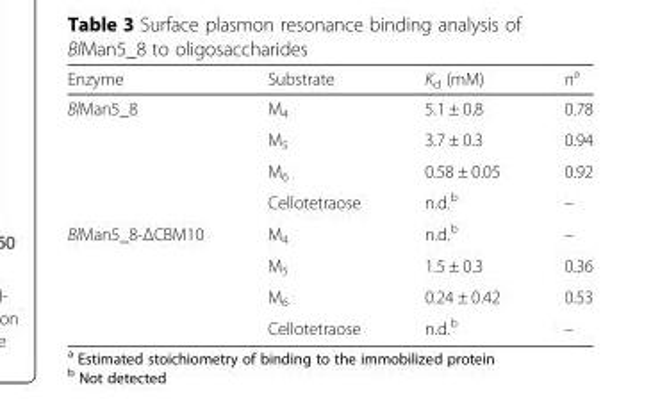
<table><thead><tr><td>Enzyme</td><td>Substrate</td><td>K<sub>d</sub> (mM)</td><td>n<sup>a</sup></td></tr></thead><tbody><tr><td rowspan="4">BlMan5_8</td><td>M<sub>4</sub></td><td>5.1 ± 0.8</td><td>0.78</td></tr><tr><td>M<sub>5</sub></td><td>3.7 ± 0.3</td><td>0.94</td></tr><tr><td>M<sub>6</sub></td><td>0.58 ± 0.05</td><td>0.92</td></tr><tr><td>Cellotetraose</td><td>n.d.<sup>b</sup></td><td>–</td></tr><tr><td rowspan="4">BlMan5_8-ΔCBM10</td><td>M<sub>4</sub></td><td>n.d.<sup>b</sup></td><td>–</td></tr><tr><td>M<sub>5</sub></td><td>1.5 ± 0.3</td><td>0.36</td></tr><tr><td>M<sub>6</sub></td><td>0.24 ± 0.42</td><td>0.53</td></tr><tr><td>Cellotetraose</td><td>n.d.<sup>b</sup></td><td>–</td></tr></tbody></table>